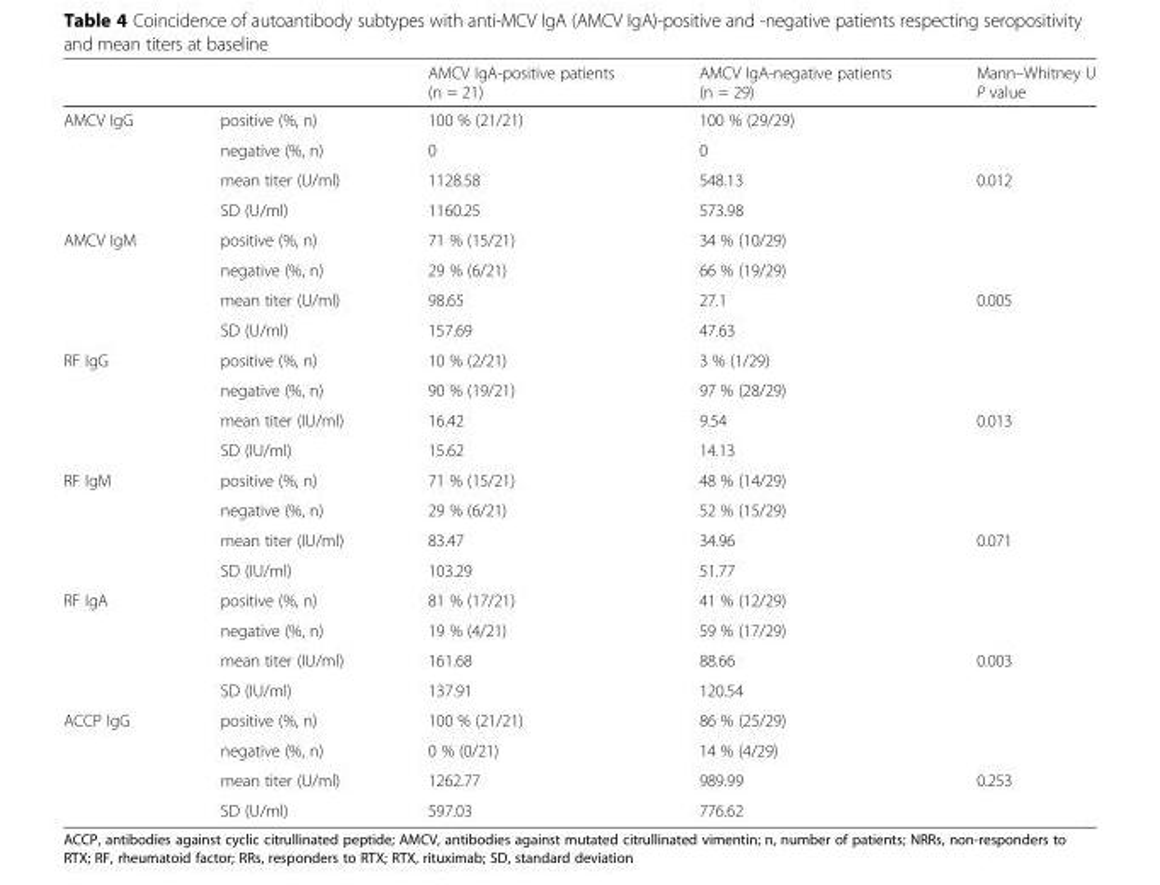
<table><thead><tr><td rowspan="2"></td><td rowspan="2"></td><td rowspan="2">AMCV IgA-positive patients (n = 21)</td><td rowspan="2">AMCV IgA-negative patients (n = 29)</td><td rowspan="2">Mann–Whitney U P value</td></tr><tr></tr></thead><tbody><tr><td rowspan="4">AMCV IgG</td><td>positive (%, n)</td><td>100 % (21/21)</td><td>100 % (29/29)</td><td></td></tr><tr><td>negative (%, n)</td><td>0</td><td>0</td><td></td></tr><tr><td>mean titer (U/ml)</td><td>1128.58</td><td>548.13</td><td>0.012</td></tr><tr><td>SD (U/ml)</td><td>1160.25</td><td>573.98</td><td></td></tr><tr><td rowspan="4">AMCV IgM</td><td>positive (%, n)</td><td>71 % (15/21)</td><td>34 % (10/29)</td><td></td></tr><tr><td>negative (%, n)</td><td>29 % (6/21)</td><td>66 % (19/29)</td><td></td></tr><tr><td>mean titer (U/ml)</td><td>98.65</td><td>27.1</td><td>0.005</td></tr><tr><td>SD (U/ml)</td><td>157.69</td><td>47.63</td><td></td></tr><tr><td rowspan="4">RF IgG</td><td>positive (%, n)</td><td>10 % (2/21)</td><td>3 % (1/29)</td><td></td></tr><tr><td>negative (%, n)</td><td>90 % (19/21)</td><td>97 % (28/29)</td><td></td></tr><tr><td>mean titer (IU/ml)</td><td>16.42</td><td>9.54</td><td>0.013</td></tr><tr><td>SD (IU/ml)</td><td>15.62</td><td>14.13</td><td></td></tr><tr><td rowspan="4">RF IgM</td><td>positive (%, n)</td><td>71 % (15/21)</td><td>48 % (14/29)</td><td></td></tr><tr><td>negative (%, n)</td><td>29 % (6/21)</td><td>52 % (15/29)</td><td></td></tr><tr><td>mean titer (IU/ml)</td><td>83.47</td><td>34.96</td><td>0.071</td></tr><tr><td>SD (IU/ml)</td><td>103.29</td><td>51.77</td><td></td></tr><tr><td rowspan="4">RF IgA</td><td>positive (%, n)</td><td>81 % (17/21)</td><td>41 % (12/29)</td><td></td></tr><tr><td>negative (%, n)</td><td>19 % (4/21)</td><td>59 % (17/29)</td><td></td></tr><tr><td>mean titer (IU/ml)</td><td>161.68</td><td>88.66</td><td>0.003</td></tr><tr><td>SD (IU/ml)</td><td>137.91</td><td>120.54</td><td></td></tr><tr><td rowspan="4">ACCP IgG</td><td>positive (%, n)</td><td>100 % (21/21)</td><td>86 % (25/29)</td><td></td></tr><tr><td>negative (%, n)</td><td>0 % (0/21)</td><td>14 % (4/29)</td><td></td></tr><tr><td>mean titer (U/ml)</td><td>1262.77</td><td>989.99</td><td>0.253</td></tr><tr><td>SD (U/ml)</td><td>597.03</td><td>776.62</td><td></td></tr></tbody></table>